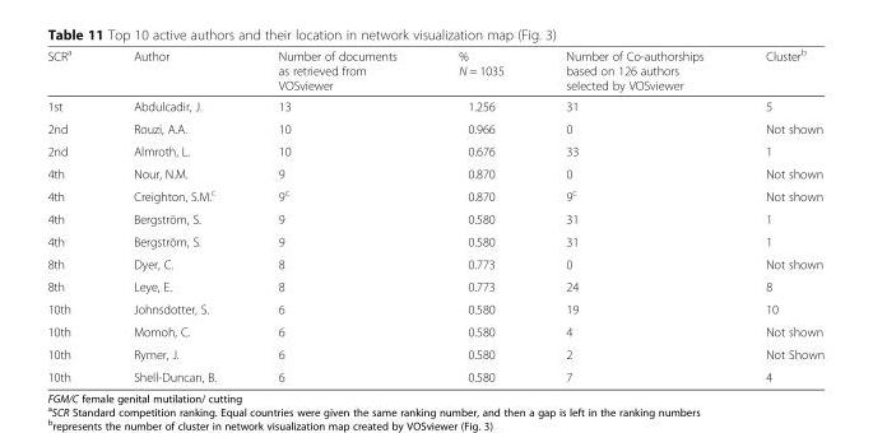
<table><thead><tr><td>SCR<sup>a</sup></td><td>Author</td><td>Number of documents as retrieved from VOSviewer</td><td>% N = 1035</td><td>Number of Co-authorships based on 126 authors selected by VOSviewer</td><td>Cluster<sup>b</sup></td></tr></thead><tbody><tr><td>1st</td><td>Abdulcadir, J.</td><td>13</td><td>1.256</td><td>31</td><td>5</td></tr><tr><td>2nd</td><td>Rouzi, A.A.</td><td>10</td><td>0.966</td><td>0</td><td>Not shown</td></tr><tr><td>2nd</td><td>Almroth, L.</td><td>10</td><td>0.676</td><td>33</td><td>1</td></tr><tr><td>4th</td><td>Nour, N.M.</td><td>9</td><td>0.870</td><td>0</td><td>Not shown</td></tr><tr><td>4th</td><td>Creighton, S.M.<sup>c</sup></td><td>9<sup>c</sup></td><td>0.870</td><td>9<sup>c</sup></td><td>Not shown</td></tr><tr><td>4th</td><td>Bergström, S.</td><td>9</td><td>0.580</td><td>31</td><td>1</td></tr><tr><td>4th</td><td>Bergström, S.</td><td>9</td><td>0.580</td><td>31</td><td>1</td></tr><tr><td>8th</td><td>Dyer, C.</td><td>8</td><td>0.773</td><td>0</td><td>Not shown</td></tr><tr><td>8th</td><td>Leye, E.</td><td>8</td><td>0.773</td><td>24</td><td>8</td></tr><tr><td>10th</td><td>Johnsdotter, S.</td><td>6</td><td>0.580</td><td>19</td><td>10</td></tr><tr><td>10th</td><td>Momoh, C.</td><td>6</td><td>0.580</td><td>4</td><td>Not shown</td></tr><tr><td>10th</td><td>Rymer, J.</td><td>6</td><td>0.580</td><td>2</td><td>Not Shown</td></tr><tr><td>10th</td><td>Shell-Duncan, B.</td><td>6</td><td>0.580</td><td>7</td><td>4</td></tr></tbody></table>